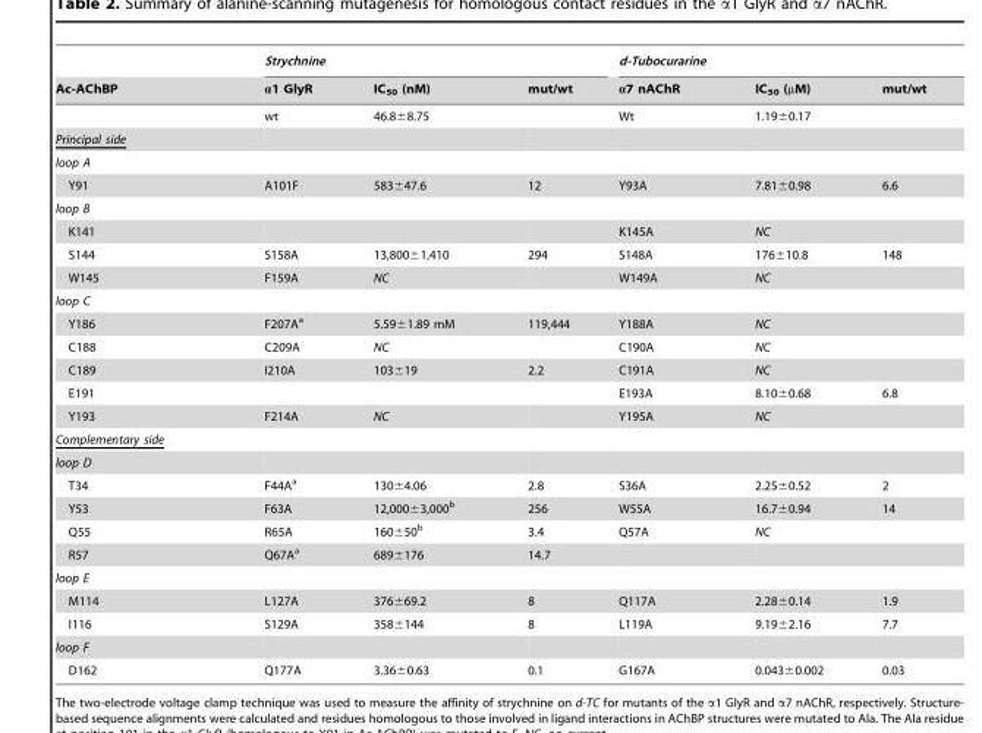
<table><thead><tr><td rowspan="2">Ac-AChBP</td><td colspan="3">Strychnine</td><td colspan="3">d-Tubocurarine</td></tr><tr><td>α1 GlyR</td><td>IC<sub>50</sub> (nM)</td><td>mut/wt</td><td>α7 nAChR</td><td>IC<sub>50</sub> (µM)</td><td>mut/wt</td></tr></thead><tbody><tr><td></td><td>wt</td><td>46.8±8.75</td><td></td><td>Wt</td><td>1.19±0.17</td><td></td></tr><tr><td colspan="7">Principal side</td></tr><tr><td colspan="7">loop A</td></tr><tr><td>Y91</td><td>A101F</td><td>583±47.6</td><td>12</td><td>Y93A</td><td>7.81±0.98</td><td>6.6</td></tr><tr><td colspan="7">loop B</td></tr><tr><td>K141</td><td></td><td></td><td></td><td>K145A</td><td>NC</td><td></td></tr><tr><td>S144</td><td>S158A</td><td>13,800±1,410</td><td>294</td><td>S148A</td><td>176±10.8</td><td>148</td></tr><tr><td>W145</td><td>F159A</td><td>NC</td><td></td><td>W149A</td><td>NC</td><td></td></tr><tr><td colspan="7">loop C</td></tr><tr><td>Y186</td><td>F207A<sup>a</sup></td><td>5.59±1.89 mM</td><td>119,444</td><td>Y188A</td><td>NC</td><td></td></tr><tr><td>C188</td><td>C209A</td><td>NC</td><td></td><td>C190A</td><td>NC</td><td></td></tr><tr><td>C189</td><td>I210A</td><td>103±19</td><td>2.2</td><td>C191A</td><td>NC</td><td></td></tr><tr><td>E191</td><td></td><td></td><td></td><td>E193A</td><td>8.10±0.68</td><td>6.8</td></tr><tr><td>Y193</td><td>F214A</td><td>NC</td><td></td><td>Y195A</td><td>NC</td><td></td></tr><tr><td colspan="7">Complementary side</td></tr><tr><td colspan="7">loop D</td></tr><tr><td>T34</td><td>F44A<sup>a</sup></td><td>130±4.06</td><td>2.8</td><td>S36A</td><td>2.25±0.52</td><td>2</td></tr><tr><td>Y53</td><td>F63A</td><td>12,000±3,000<sup>b</sup></td><td>256</td><td>W55A</td><td>16.7±0.94</td><td>14</td></tr><tr><td>Q55</td><td>R65A</td><td>160±50<sup>b</sup></td><td>3.4</td><td>Q57A</td><td>NC</td><td></td></tr><tr><td>R57</td><td>Q67A<sup>a</sup></td><td>689±176</td><td>14.7</td><td></td><td></td><td></td></tr><tr><td colspan="7">loop E</td></tr><tr><td>M114</td><td>L127A</td><td>376±69.2</td><td>8</td><td>Q117A</td><td>2.28±0.14</td><td>1.9</td></tr><tr><td>I116</td><td>S129A</td><td>358±144</td><td>8</td><td>L119A</td><td>9.19±2.16</td><td>7.7</td></tr><tr><td colspan="7">loop F</td></tr><tr><td>D162</td><td>Q177A</td><td>3.36±0.63</td><td>0.1</td><td>G167A</td><td>0.043±0.002</td><td>0.03</td></tr></tbody></table>